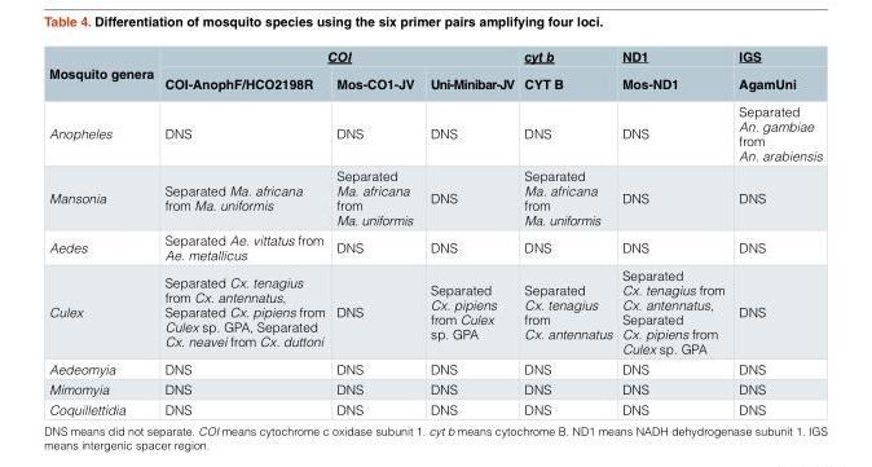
<table><thead><tr><td rowspan="2">Mosquito genera</td><td colspan="3">COI</td><td rowspan="2">cyt b CYT B</td><td rowspan="2">ND1 Mos-ND1</td><td rowspan="2">IGS AgamUni</td></tr><tr><td>COI-AnophF/HCO2198R</td><td>Mos-CO1-JV</td><td>Uni-Minibar-JV</td></tr></thead><tbody><tr><td>Anopheles</td><td>DNS</td><td>DNS</td><td>DNS</td><td>DNS</td><td>DNS</td><td>Separated An. gambiae from An. arabiensis</td></tr><tr><td>Mansonia</td><td>Separated Ma. africana from Ma. uniformis</td><td>Separated Ma. africana from Ma. uniformis</td><td>DNS</td><td>Separated Ma. africana from Ma. uniformis</td><td>DNS</td><td>DNS</td></tr><tr><td>Aedes</td><td>Separated Ae. vittatus from Ae. metallicus</td><td>DNS</td><td>DNS</td><td>DNS</td><td>DNS</td><td>DNS</td></tr><tr><td>Culex</td><td>Separated Cx. tenagius from Cx. antennatus, Separated Cx. pipiens from Culex sp. GPA, Separated Cx. neavei from Cx. duttoni</td><td>DNS</td><td>Separated Cx. pipiens from Culex sp. GPA</td><td>Separated Cx. tenagius from Cx. antennatus</td><td>Separated Cx. tenagius from Cx. antennatus, Separated Cx. pipiens from Culex sp. GPA</td><td>DNS</td></tr><tr><td>Aedeomyia</td><td>DNS</td><td>DNS</td><td>DNS</td><td>DNS</td><td>DNS</td><td>DNS</td></tr><tr><td>Mimomyia</td><td>DNS</td><td>DNS</td><td>DNS</td><td>DNS</td><td>DNS</td><td>DNS</td></tr><tr><td>Coquillettidia</td><td>DNS</td><td>DNS</td><td>DNS</td><td>DNS</td><td>DNS</td><td>DNS</td></tr></tbody></table>